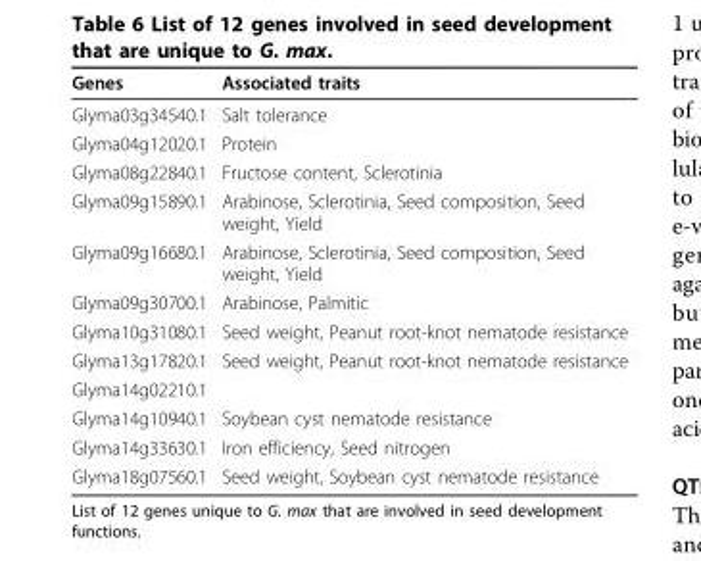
<table><thead><tr><td>Genes</td><td>Associated traits</td></tr></thead><tbody><tr><td>Glyma03g34540.1</td><td>Salt tolerance</td></tr><tr><td>Glyma04g12020.1</td><td>Protein</td></tr><tr><td>Glyma08g22840.1</td><td>Fructose content, Sclerotinia</td></tr><tr><td>Glyma09g15890.1</td><td>Arabinose, Sclerotinia, Seed composition, Seed weight, Yield</td></tr><tr><td>Glyma09g16680.1</td><td>Arabinose, Sclerotinia, Seed composition, Seed weight, Yield</td></tr><tr><td>Glyma09g30700.1</td><td>Arabinose, Palmitic</td></tr><tr><td>Glyma10g31080.1</td><td>Seed weight, Peanut root-knot nematode resistance</td></tr><tr><td>Glyma13g17820.1</td><td>Seed weight, Peanut root-knot nematode resistance</td></tr><tr><td colspan="2">Glyma14g02210.1</td></tr><tr><td>Glyma14g10940.1</td><td>Soybean cyst nematode resistance</td></tr><tr><td>Glyma14g33630.1</td><td>Iron efficiency, Seed nitrogen</td></tr><tr><td>Glyma18g07560.1</td><td>Seed weight, Soybean cyst nematode resistance</td></tr></tbody></table>